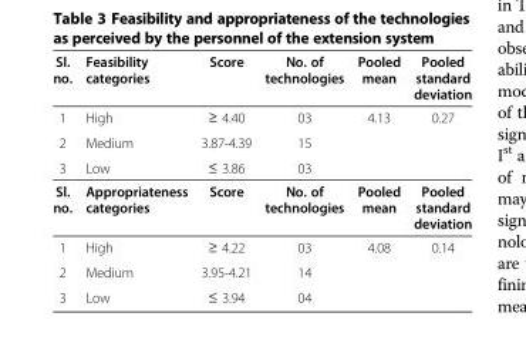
<table><thead><tr><td>Sl. no.</td><td>Feasibility categories</td><td>Score</td><td>No. of technologies</td><td>Pooled mean</td><td>Pooled standard deviation</td></tr></thead><tbody><tr><td>1</td><td>High</td><td>≥ 4.40</td><td>03</td><td rowspan="3">4.13</td><td rowspan="3">0.27</td></tr><tr><td>2</td><td>Medium</td><td>3.87-4.39</td><td>15</td></tr><tr><td>3</td><td>Low</td><td>≤ 3.86</td><td>03</td></tr><tr><td>Sl. no.</td><td>Appropriateness categories</td><td>Score</td><td>No. of technologies</td><td>Pooled mean</td><td>Pooled standard deviation</td></tr><tr><td>1</td><td>High</td><td>≥ 4.22</td><td>03</td><td rowspan="3">4.08</td><td rowspan="3">0.14</td></tr><tr><td>2</td><td>Medium</td><td>3.95-4.21</td><td>14</td></tr><tr><td>3</td><td>Low</td><td>≤ 3.94</td><td>04</td></tr></tbody></table>